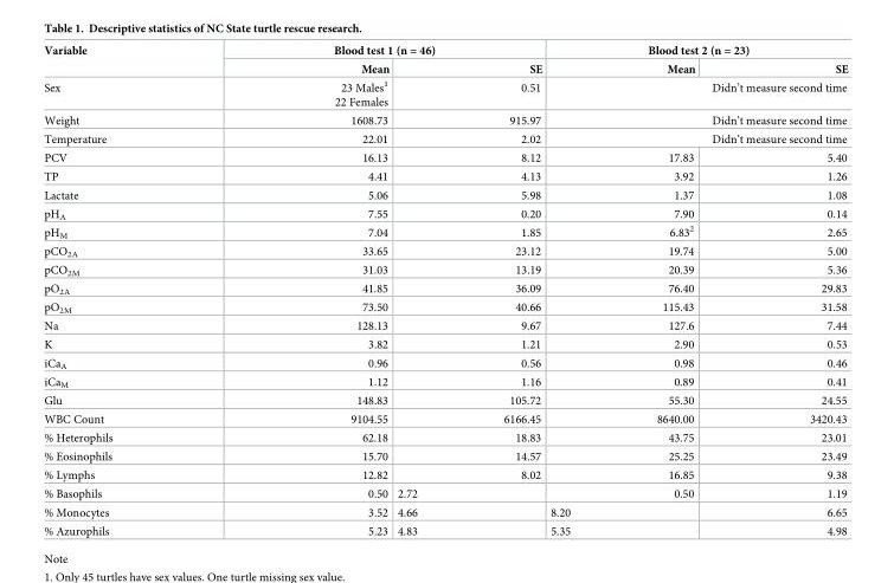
<table><thead><tr><td rowspan="2">Variable</td><td colspan="2">Blood test 1 (n = 46)</td><td colspan="2">Blood test 2 (n = 23)</td></tr><tr><td>Mean</td><td>SE</td><td>Mean</td><td>SE</td></tr></thead><tbody><tr><td>Sex</td><td>23 Males<sup>1</sup> 22 Females</td><td>0.51</td><td colspan="2">Didn’t measure second time</td></tr><tr><td>Weight</td><td>1608.73</td><td>915.97</td><td colspan="2">Didn’t measure second time</td></tr><tr><td>Temperature</td><td>22.01</td><td>2.02</td><td colspan="2">Didn’t measure second time</td></tr><tr><td>PCV</td><td>16.13</td><td>8.12</td><td>17.83</td><td>5.40</td></tr><tr><td>TP</td><td>4.41</td><td>4.13</td><td>3.92</td><td>1.26</td></tr><tr><td>Lactate</td><td>5.06</td><td>5.98</td><td>1.37</td><td>1.08</td></tr><tr><td>pH<sub>A</sub></td><td>7.55</td><td>0.20</td><td>7.90</td><td>0.14</td></tr><tr><td>pH<sub>M</sub></td><td>7.04</td><td>1.85</td><td>6.83<sup>2</sup></td><td>2.65</td></tr><tr><td>pCO<sub>2A</sub></td><td>33.65</td><td>23.12</td><td>19.74</td><td>5.00</td></tr><tr><td>pCO<sub>2M</sub></td><td>31.03</td><td>13.19</td><td>20.39</td><td>5.36</td></tr><tr><td>pO<sub>2A</sub></td><td>41.85</td><td>36.09</td><td>76.40</td><td>29.83</td></tr><tr><td>pO<sub>2M</sub></td><td>73.50</td><td>40.66</td><td>115.43</td><td>31.58</td></tr><tr><td>Na</td><td>128.13</td><td>9.67</td><td>127.6</td><td>7.44</td></tr><tr><td>K</td><td>3.82</td><td>1.21</td><td>2.90</td><td>0.53</td></tr><tr><td>iCa<sub>A</sub></td><td>0.96</td><td>0.56</td><td>0.98</td><td>0.46</td></tr><tr><td>iCa<sub>M</sub></td><td>1.12</td><td>1.16</td><td>0.89</td><td>0.41</td></tr><tr><td>Glu</td><td>148.83</td><td>105.72</td><td>55.30</td><td>24.55</td></tr><tr><td>WBC Count</td><td>9104.55</td><td>6166.45</td><td>8640.00</td><td>3420.43</td></tr><tr><td>% Heterophils</td><td>62.18</td><td>18.83</td><td>43.75</td><td>23.01</td></tr><tr><td>% Eosinophils</td><td>15.70</td><td>14.57</td><td>25.25</td><td>23.49</td></tr><tr><td>% Lymphs</td><td>12.82</td><td>8.02</td><td>16.85</td><td>9.38</td></tr><tr><td>% Basophils</td><td>0.50</td><td>2.72</td><td>0.50</td><td>1.19</td></tr><tr><td>% Monocytes</td><td>3.52</td><td>4.66</td><td>8.20</td><td>6.65</td></tr><tr><td>% Azurophils</td><td>5.23</td><td>4.83</td><td>5.35</td><td>4.98</td></tr></tbody></table>